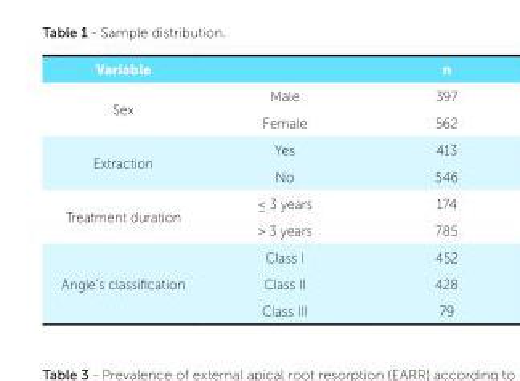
<table><thead><tr><td>Variable</td><td></td><td>n</td></tr></thead><tbody><tr><td rowspan="2">Sex</td><td>Male</td><td>397</td></tr><tr><td>Female</td><td>562</td></tr><tr><td rowspan="2">Extraction</td><td>Yes</td><td>413</td></tr><tr><td>No</td><td>546</td></tr><tr><td rowspan="2">Treatment duration</td><td>≤ 3 years</td><td>174</td></tr><tr><td>&gt; 3 years</td><td>785</td></tr><tr><td rowspan="3">Angle’s classification</td><td>Class I</td><td>452</td></tr><tr><td>Class II</td><td>428</td></tr><tr><td>Class III</td><td>79</td></tr></tbody></table>